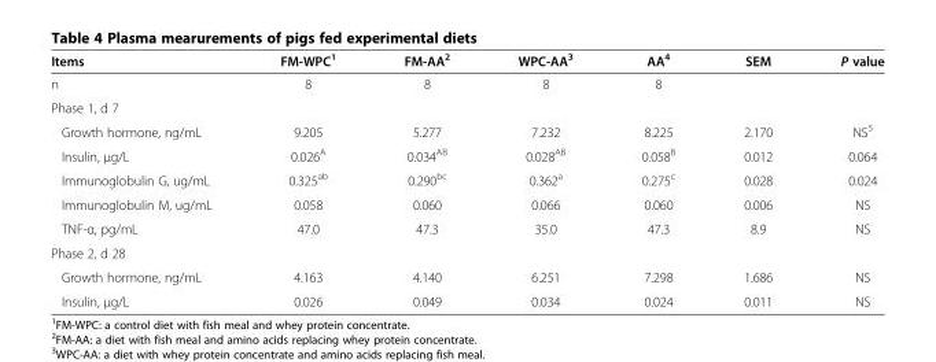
<table><thead><tr><td>Items</td><td>FM-WPC<sup>1</sup></td><td>FM-AA<sup>2</sup></td><td>WPC-AA<sup>3</sup></td><td>AA<sup>4</sup></td><td>SEM</td><td>P value</td></tr></thead><tbody><tr><td>n</td><td>8</td><td>8</td><td>8</td><td>8</td><td></td><td></td></tr><tr><td colspan="7">Phase 1, d 7</td></tr><tr><td>Growth hormone, ng/mL</td><td>9.205</td><td>5.277</td><td>7.232</td><td>8.225</td><td>2.170</td><td>NS<sup>5</sup></td></tr><tr><td>Insulin, μg/L</td><td>0.026<sup>A</sup></td><td>0.034<sup>AB</sup></td><td>0.028<sup>AB</sup></td><td>0.058<sup>B</sup></td><td>0.012</td><td>0.064</td></tr><tr><td>Immunoglobulin G, ug/mL</td><td>0.325<sup>ab</sup></td><td>0.290<sup>bc</sup></td><td>0.362<sup>a</sup></td><td>0.275<sup>c</sup></td><td>0.028</td><td>0.024</td></tr><tr><td>Immunoglobulin M, ug/mL</td><td>0.058</td><td>0.060</td><td>0.066</td><td>0.060</td><td>0.006</td><td>NS</td></tr><tr><td>TNF-α, pg/mL</td><td>47.0</td><td>47.3</td><td>35.0</td><td>47.3</td><td>8.9</td><td>NS</td></tr><tr><td colspan="7">Phase 2, d 28</td></tr><tr><td>Growth hormone, ng/mL</td><td>4.163</td><td>4.140</td><td>6.251</td><td>7.298</td><td>1.686</td><td>NS</td></tr><tr><td>Insulin, μg/L</td><td>0.026</td><td>0.049</td><td>0.034</td><td>0.024</td><td>0.011</td><td>NS</td></tr></tbody></table>